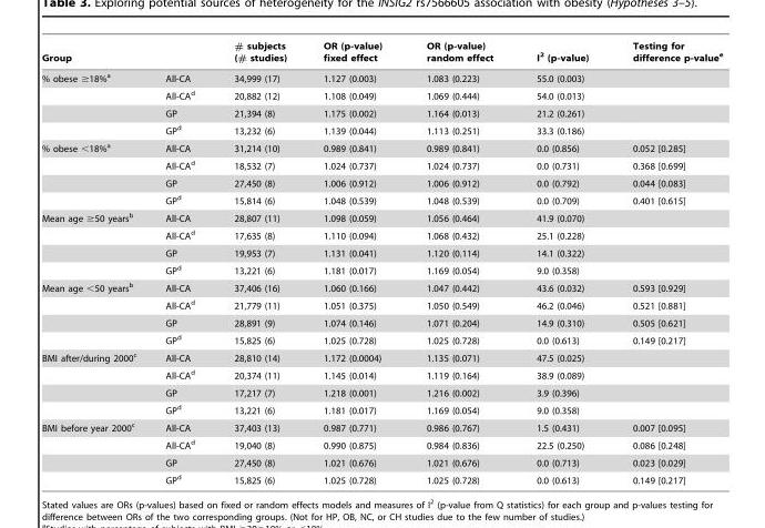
<table><thead><tr><td>Group</td><td></td><td># subjects (# studies)</td><td>OR (p-value) fixed effect</td><td>OR (p-value) random effect</td><td>I<sup>2</sup> (p-value)</td><td>Testing for difference p-value<sup>e</sup></td></tr></thead><tbody><tr><td rowspan="4">% obese ≥18%<sup>a</sup></td><td>All-CA</td><td>34,999 (17)</td><td>1.127 (0.003)</td><td>1.083 (0.223)</td><td>55.0 (0.003)</td><td></td></tr><tr><td>All-CA<sup>d</sup></td><td>20,882 (12)</td><td>1.108 (0.049)</td><td>1.069 (0.444)</td><td>54.0 (0.013)</td><td></td></tr><tr><td>GP</td><td>21,394 (8)</td><td>1.175 (0.002)</td><td>1.164 (0.013)</td><td>21.2 (0.261)</td><td></td></tr><tr><td>GP<sup>d</sup></td><td>13,232 (6)</td><td>1.139 (0.044)</td><td>1.113 (0.251)</td><td>33.3 (0.186)</td><td></td></tr><tr><td rowspan="4">% obese &lt;18%<sup>a</sup></td><td>All-CA</td><td>31,214 (10)</td><td>0.989 (0.841)</td><td>0.989 (0.841)</td><td>0.0 (0.856)</td><td>0.052 [0.285]</td></tr><tr><td>All-CA<sup>d</sup></td><td>18,532 (7)</td><td>1.024 (0.737)</td><td>1.024 (0.737)</td><td>0.0 (0.731)</td><td>0.368 [0.699]</td></tr><tr><td>GP</td><td>27,450 (8)</td><td>1.006 (0.912)</td><td>1.006 (0.912)</td><td>0.0 (0.792)</td><td>0.044 [0.083]</td></tr><tr><td>GP<sup>d</sup></td><td>15,814 (6)</td><td>1.048 (0.539)</td><td>1.048 (0.539)</td><td>0.0 (0.709)</td><td>0.401 [0.615]</td></tr><tr><td rowspan="4">Mean age ≥50 years<sup>b</sup></td><td>All-CA</td><td>28,807 (11)</td><td>1.098 (0.059)</td><td>1.056 (0.464)</td><td>41.9 (0.070)</td><td></td></tr><tr><td>All-CA<sup>d</sup></td><td>17,635 (8)</td><td>1.110 (0.094)</td><td>1.068 (0.432)</td><td>25.1 (0.228)</td><td></td></tr><tr><td>GP</td><td>19,953 (7)</td><td>1.131 (0.041)</td><td>1.120 (0.114)</td><td>14.1 (0.322)</td><td></td></tr><tr><td>GP<sup>d</sup></td><td>13,221 (6)</td><td>1.181 (0.017)</td><td>1.169 (0.054)</td><td>9.0 (0.358)</td><td></td></tr><tr><td rowspan="4">Mean age &lt;50 years<sup>b</sup></td><td>All-CA</td><td>37,406 (16)</td><td>1.060 (0.166)</td><td>1.047 (0.442)</td><td>43.6 (0.032)</td><td>0.593 [0.929]</td></tr><tr><td>All-CA<sup>d</sup></td><td>21,779 (11)</td><td>1.051 (0.375)</td><td>1.050 (0.549)</td><td>46.2 (0.046)</td><td>0.521 [0.881]</td></tr><tr><td>GP</td><td>28,891 (9)</td><td>1.074 (0.146)</td><td>1.071 (0.204)</td><td>14.9 (0.310)</td><td>0.505 [0.621]</td></tr><tr><td>GP<sup>d</sup></td><td>15,825 (6)</td><td>1.025 (0.728)</td><td>1.025 (0.728)</td><td>0.0 (0.613)</td><td>0.149 [0.217]</td></tr><tr><td rowspan="4">BMI after/during 2000<sup>c</sup></td><td>All-CA</td><td>28,810 (14)</td><td>1.172 (0.0004)</td><td>1.135 (0.071)</td><td>47.5 (0.025)</td><td></td></tr><tr><td>All-CA<sup>d</sup></td><td>20,374 (11)</td><td>1.145 (0.014)</td><td>1.119 (0.164)</td><td>38.9 (0.089)</td><td></td></tr><tr><td>GP</td><td>17,217 (7)</td><td>1.218 (0.001)</td><td>1.216 (0.002)</td><td>3.9 (0.396)</td><td></td></tr><tr><td>GP<sup>d</sup></td><td>13,221 (6)</td><td>1.181 (0.017)</td><td>1.169 (0.054)</td><td>9.0 (0.358)</td><td></td></tr><tr><td rowspan="4">BMI before year 2000<sup>c</sup></td><td>All-CA</td><td>37,403 (13)</td><td>0.987 (0.771)</td><td>0.986 (0.767)</td><td>1.5 (0.431)</td><td>0.007 [0.095]</td></tr><tr><td>All-CA<sup>d</sup></td><td>19,040 (8)</td><td>0.990 (0.875)</td><td>0.984 (0.836)</td><td>22.5 (0.250)</td><td>0.086 [0.248]</td></tr><tr><td>GP</td><td>27,450 (8)</td><td>1.021 (0.676)</td><td>1.021 (0.676)</td><td>0.0 (0.713)</td><td>0.023 [0.029]</td></tr><tr><td>GP<sup>d</sup></td><td>15,825 (6)</td><td>1.025 (0.728)</td><td>1.025 (0.728)</td><td>0.0 (0.613)</td><td>0.149 [0.217]</td></tr></tbody></table>